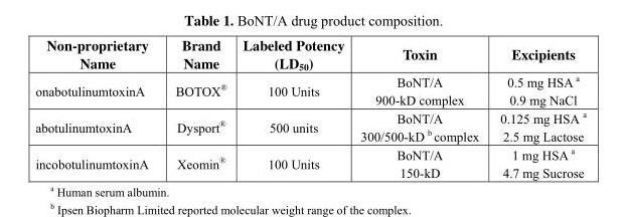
<table><thead><tr><td>Non-proprietary Name</td><td>Brand Name</td><td>Labeled Potency (LD<sub>50</sub>)</td><td>Toxin</td><td>Excipients</td></tr></thead><tbody><tr><td>onabotulinumtoxinA</td><td>BOTOX<sup>®</sup></td><td>100 Units</td><td>BoNT/A 900-kD complex</td><td>0.5 mg HSA <sup>a</sup> 0.9 mg NaCl</td></tr><tr><td>abotulinumtoxinA</td><td>Dysport<sup>®</sup></td><td>500 units</td><td>BoNT/A 300/500-kD <sup>b</sup> complex</td><td>0.125 mg HSA <sup>a</sup> 2.5 mg Lactose</td></tr><tr><td>incobotulinumtoxinA</td><td>Xeomin<sup>®</sup></td><td>100 Units</td><td>BoNT/A 150-kD</td><td>1 mg HSA <sup>a</sup> 4.7 mg Sucrose</td></tr></tbody></table>